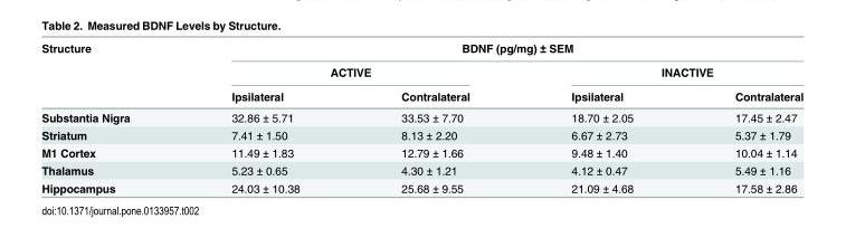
<table><thead><tr><td rowspan="3">Structure</td><td colspan="4">BDNF (pg/mg) ± SEM</td></tr><tr><td colspan="2">ACTIVE</td><td colspan="2">INACTIVE</td></tr><tr><td>Ipsilateral</td><td>Contralateral</td><td>Ipsilateral</td><td>Contralateral</td></tr></thead><tbody><tr><td>Substantia Nigra</td><td>32.86 ± 5.71</td><td>33.53 ± 7.70</td><td>18.70 ± 2.05</td><td>17.45 ± 2.47</td></tr><tr><td>Striatum</td><td>7.41 ± 1.50</td><td>8.13 ± 2.20</td><td>6.67 ± 2.73</td><td>5.37 ± 1.79</td></tr><tr><td>M1 Cortex</td><td>11.49 ± 1.83</td><td>12.79 ± 1.66</td><td>9.48 ± 1.40</td><td>10.04 ± 1.14</td></tr><tr><td>Thalamus</td><td>5.23 ± 0.65</td><td>4.30 ± 1.21</td><td>4.12 ± 0.47</td><td>5.49 ± 1.16</td></tr><tr><td>Hippocampus</td><td>24.03 ± 10.38</td><td>25.68 ± 9.55</td><td>21.09 ± 4.68</td><td>17.58 ± 2.86</td></tr></tbody></table>